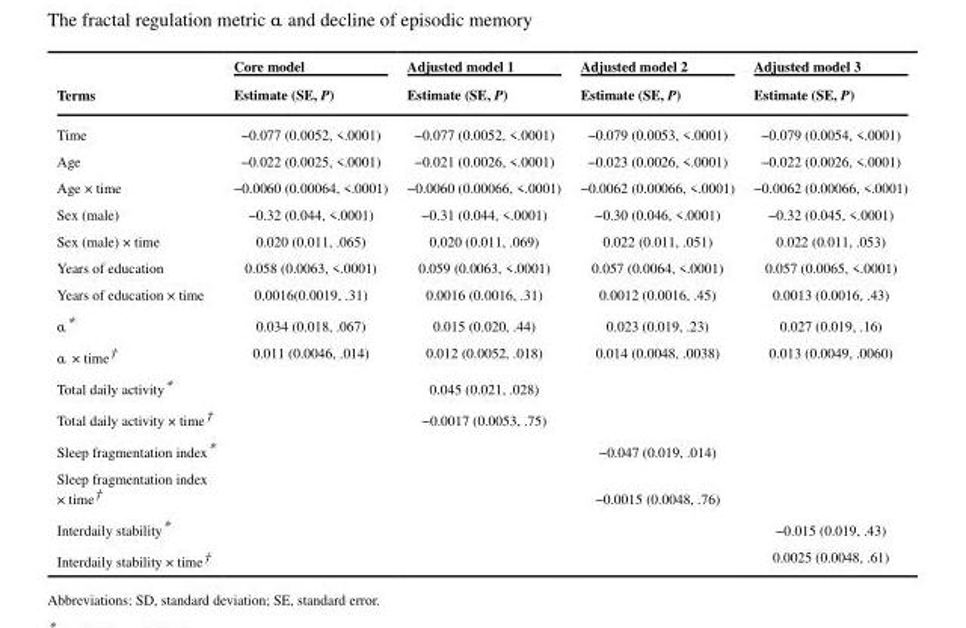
<table><thead><tr><td rowspan="2">Terms</td><td rowspan="2">Core model Estimate (SE, P)</td><td rowspan="2">Adjusted model 1 Estimate (SE, P)</td><td rowspan="2">Adjusted model 2 Estimate (SE, P)</td><td rowspan="2">Adjusted model 3 Estimate (SE, P)</td></tr><tr></tr></thead><tbody><tr><td>Time</td><td>−0.077 (0.0052, &lt;.0001)</td><td>−0.077 (0.0052, &lt;.0001)</td><td>−0.079 (0.0053, &lt;.0001)</td><td>−0.079 (0.0054, &lt;.0001)</td></tr><tr><td>Age</td><td>−0.022 (0.0025, &lt;.0001)</td><td>−0.021 (0.0026, &lt;.0001)</td><td>−0.023 (0.0026, &lt;.0001)</td><td>−0.022 (0.0026, &lt;.0001)</td></tr><tr><td>Age × time</td><td>−0.0060 (0.00064, &lt;.0001)</td><td>−0.0060 (0.00066, &lt;.0001)</td><td>−0.0062 (0.00066, &lt;.0001)</td><td>−0.0062 (0.00066, &lt;.0001)</td></tr><tr><td>Sex (male)</td><td>−0.32 (0.044, &lt;.0001)</td><td>−0.31 (0.044, &lt;.0001)</td><td>−0.30 (0.046, &lt;.0001)</td><td>−0.32 (0.045, &lt;.0001)</td></tr><tr><td>Sex (male) × time</td><td>0.020 (0.011, .065)</td><td>0.020 (0.011, .069)</td><td>0.022 (0.011, .051)</td><td>0.022 (0.011, .053)</td></tr><tr><td>Years of education</td><td>0.058 (0.0063, &lt;.0001)</td><td>0.059 (0.0063, &lt;.0001)</td><td>0.057 (0.0064, &lt;.0001)</td><td>0.057 (0.0065, &lt;.0001)</td></tr><tr><td>Years of education × time</td><td>0.0016(0.0019, .31)</td><td>0.0016 (0.0016, .31)</td><td>0.0012 (0.0016, .45)</td><td>0.0013 (0.0016, .43)</td></tr><tr><td>α*</td><td>0.034 (0.018, .067)</td><td>0.015 (0.020, .44)</td><td>0.023 (0.019, .23)</td><td>0.027 (0.019, .16)</td></tr><tr><td>α × time†</td><td>0.011 (0.0046, .014)</td><td>0.012 (0.0052, .018)</td><td>0.014 (0.0048, .0038)</td><td>0.013 (0.0049, .0060)</td></tr><tr><td>Total daily activity*</td><td></td><td>0.045 (0.021, .028)</td><td></td><td></td></tr><tr><td>Total daily activity × time†</td><td></td><td>−0.0017 (0.0053, .75)</td><td></td><td></td></tr><tr><td>Sleep fragmentation index*</td><td></td><td></td><td>−0.047 (0.019, .014)</td><td></td></tr><tr><td>Sleep fragmentation index × time†</td><td></td><td></td><td>−0.0015 (0.0048, .76)</td><td></td></tr><tr><td>Interdaily stability*</td><td></td><td></td><td></td><td>−0.015 (0.019, .43)</td></tr><tr><td>Interdaily stability × time†</td><td></td><td></td><td></td><td>0.0025 (0.0048, .61)</td></tr></tbody></table>